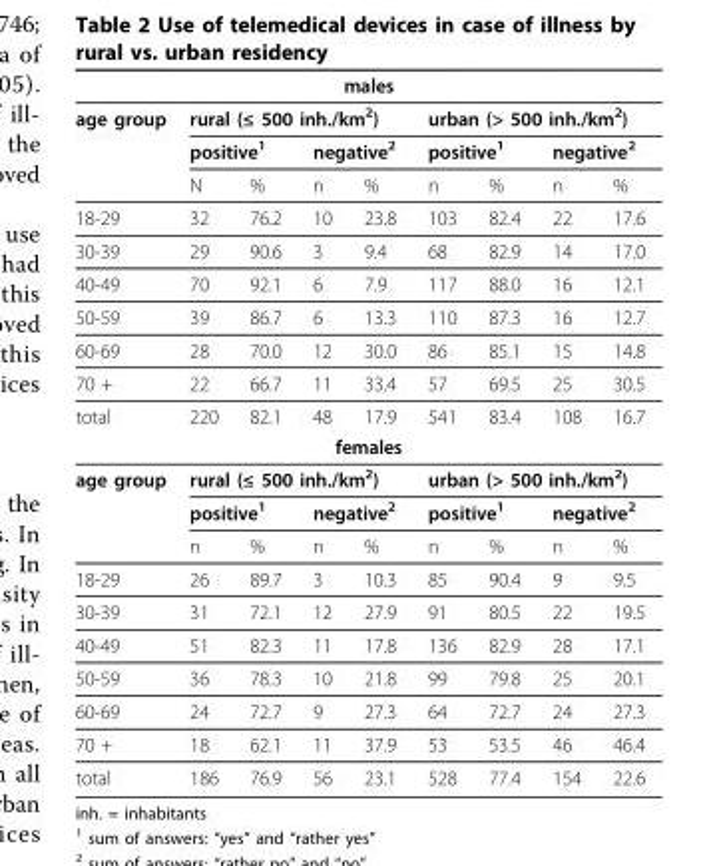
<table><thead><tr><td colspan="9">males</td></tr><tr><td rowspan="3">age group</td><td colspan="4">rural (≤ 500 inh./km<sup>2</sup>)</td><td colspan="4">urban (&gt; 500 inh./km<sup>2</sup>)</td></tr><tr><td colspan="2">positive<sup>1</sup></td><td colspan="2">negative<sup>2</sup></td><td colspan="2">positive<sup>1</sup></td><td colspan="2">negative<sup>2</sup></td></tr><tr><td>N</td><td>%</td><td>n</td><td>%</td><td>n</td><td>%</td><td>n</td><td>%</td></tr></thead><tbody><tr><td>18-29</td><td>32</td><td>76.2</td><td>10</td><td>23.8</td><td>103</td><td>82.4</td><td>22</td><td>17.6</td></tr><tr><td>30-39</td><td>29</td><td>90.6</td><td>3</td><td>9.4</td><td>68</td><td>82.9</td><td>14</td><td>17.0</td></tr><tr><td>40-49</td><td>70</td><td>92.1</td><td>6</td><td>7.9</td><td>117</td><td>88.0</td><td>16</td><td>12.1</td></tr><tr><td>50-59</td><td>39</td><td>86.7</td><td>6</td><td>13.3</td><td>110</td><td>87.3</td><td>16</td><td>12.7</td></tr><tr><td>60-69</td><td>28</td><td>70.0</td><td>12</td><td>30.0</td><td>86</td><td>85.1</td><td>15</td><td>14.8</td></tr><tr><td>70 +</td><td>22</td><td>66.7</td><td>11</td><td>33.4</td><td>57</td><td>69.5</td><td>25</td><td>30.5</td></tr><tr><td>total</td><td>220</td><td>82.1</td><td>48</td><td>17.9</td><td>541</td><td>83.4</td><td>108</td><td>16.7</td></tr><tr><td colspan="9">females</td></tr><tr><td rowspan="3">age group</td><td colspan="4">rural (≤ 500 inh./km<sup>2</sup>)</td><td colspan="4">urban (&gt; 500 inh./km<sup>2</sup>)</td></tr><tr><td colspan="2">positive<sup>1</sup></td><td colspan="2">negative<sup>2</sup></td><td colspan="2">positive<sup>1</sup></td><td colspan="2">negative<sup>2</sup></td></tr><tr><td>n</td><td>%</td><td>n</td><td>%</td><td>n</td><td>%</td><td>n</td><td>%</td></tr><tr><td>18-29</td><td>26</td><td>89.7</td><td>3</td><td>10.3</td><td>85</td><td>90.4</td><td>9</td><td>9.5</td></tr><tr><td>30-39</td><td>31</td><td>72.1</td><td>12</td><td>27.9</td><td>91</td><td>80.5</td><td>22</td><td>19.5</td></tr><tr><td>40-49</td><td>51</td><td>82.3</td><td>11</td><td>17.8</td><td>136</td><td>82.9</td><td>28</td><td>17.1</td></tr><tr><td>50-59</td><td>36</td><td>78.3</td><td>10</td><td>21.8</td><td>99</td><td>79.8</td><td>25</td><td>20.1</td></tr><tr><td>60-69</td><td>24</td><td>72.7</td><td>9</td><td>27.3</td><td>64</td><td>72.7</td><td>24</td><td>27.3</td></tr><tr><td>70 +</td><td>18</td><td>62.1</td><td>11</td><td>37.9</td><td>53</td><td>53.5</td><td>46</td><td>46.4</td></tr><tr><td>total</td><td>186</td><td>76.9</td><td>56</td><td>23.1</td><td>528</td><td>77.4</td><td>154</td><td>22.6</td></tr></tbody></table>